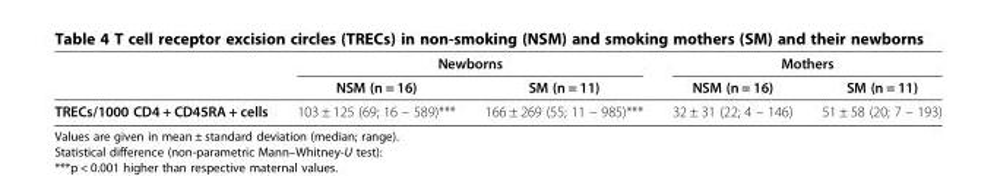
<table><thead><tr><td rowspan="2"></td><td colspan="2">Newborns</td><td colspan="2">Mothers</td></tr><tr><td>NSM (n = 16)</td><td>SM (n = 11)</td><td>NSM (n = 16)</td><td>SM (n = 11)</td></tr></thead><tbody><tr><td>TRECs/1000 CD4 + CD45RA + cells</td><td>103 ± 125 (69; 16 – 589)***</td><td>166 ± 269 (55; 11 – 985)***</td><td>32 ± 31 (22; 4 – 146)</td><td>51 ± 58 (20; 7 – 193)</td></tr></tbody></table>